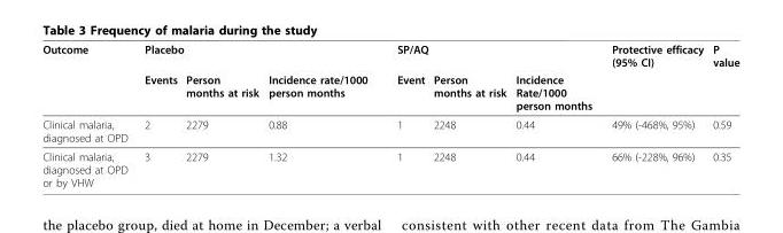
<table><thead><tr><td rowspan="2">Outcome</td><td colspan="3">Placebo</td><td colspan="3">SP/AQ</td><td rowspan="2">Protective efficacy (95% CI)</td><td rowspan="2">P value</td></tr><tr><td>Events</td><td>Person months at risk</td><td>Incidence rate/1000 person months</td><td>Event</td><td>Person months at risk</td><td>Incidence Rate/1000 person months</td></tr></thead><tbody><tr><td>Clinical malaria, diagnosed at OPD</td><td>2</td><td>2279</td><td>0.88</td><td>1</td><td>2248</td><td>0.44</td><td>49% (-468%, 95%)</td><td>0.59</td></tr><tr><td>Clinical malaria, diagnosed at OPD or by VHW</td><td>3</td><td>2279</td><td>1.32</td><td>1</td><td>2248</td><td>0.44</td><td>66% (-228%, 96%)</td><td>0.35</td></tr></tbody></table>